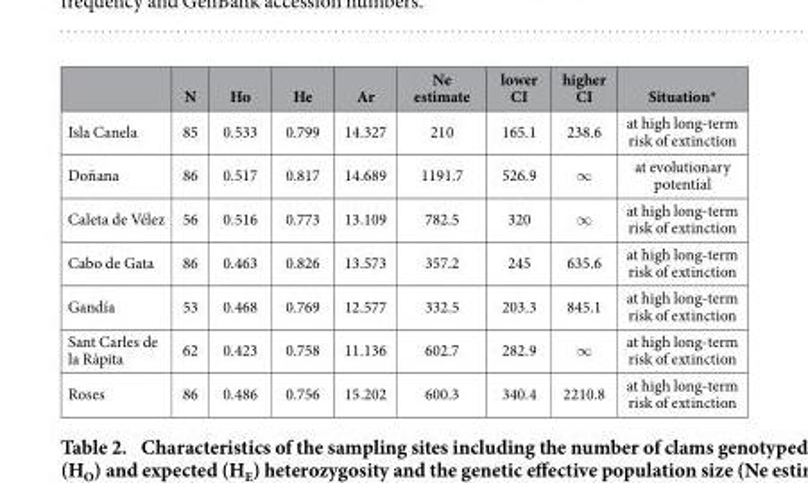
<table><thead><tr><td></td><td>N</td><td>Ho</td><td>He</td><td>Ar</td><td>Ne estimate</td><td>lower CI</td><td>higher CI</td><td>Situation*</td></tr></thead><tbody><tr><td>Isla Canela</td><td>85</td><td>0.533</td><td>0.799</td><td>14.327</td><td>210</td><td>165.1</td><td>238.6</td><td>at high long-term risk of extinction</td></tr><tr><td>Doñana</td><td>86</td><td>0.517</td><td>0.817</td><td>14.689</td><td>1191.7</td><td>526.9</td><td>∞</td><td>at evolutionary potential</td></tr><tr><td>Caleta de Vélez</td><td>56</td><td>0.516</td><td>0.773</td><td>13.109</td><td>782.5</td><td>320</td><td>∞</td><td>at high long-term risk of extinction</td></tr><tr><td>Cabo de Gata</td><td>86</td><td>0.463</td><td>0.826</td><td>13.573</td><td>357.2</td><td>245</td><td>635.6</td><td>at high long-term risk of extinction</td></tr><tr><td>Gandía</td><td>53</td><td>0.468</td><td>0.769</td><td>12.577</td><td>332.5</td><td>203.3</td><td>845.1</td><td>at high long-term risk of extinction</td></tr><tr><td>Sant Carles de la Ràpita</td><td>62</td><td>0.423</td><td>0.758</td><td>11.136</td><td>602.7</td><td>282.9</td><td>∞</td><td>at high long-term risk of extinction</td></tr><tr><td>Roses</td><td>86</td><td>0.486</td><td>0.756</td><td>15.202</td><td>600.3</td><td>340.4</td><td>2210.8</td><td>at high long-term risk of extinction</td></tr></tbody></table>